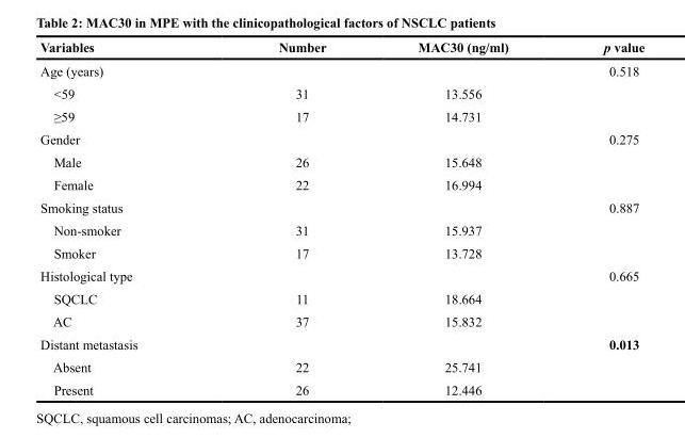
<table><thead><tr><td>Variables</td><td>Number</td><td>MAC30 (ng/ml)</td><td>p value</td></tr></thead><tbody><tr><td>Age (years)</td><td></td><td></td><td>0.518</td></tr><tr><td>&lt;59</td><td>31</td><td>13.556</td><td></td></tr><tr><td>≥59</td><td>17</td><td>14.731</td><td></td></tr><tr><td>Gender</td><td></td><td></td><td>0.275</td></tr><tr><td>Male</td><td>26</td><td>15.648</td><td></td></tr><tr><td>Female</td><td>22</td><td>16.994</td><td></td></tr><tr><td>Smoking status</td><td></td><td></td><td>0.887</td></tr><tr><td>Non-smoker</td><td>31</td><td>15.937</td><td></td></tr><tr><td>Smoker</td><td>17</td><td>13.728</td><td></td></tr><tr><td>Histological type</td><td></td><td></td><td>0.665</td></tr><tr><td>SQCLC</td><td>11</td><td>18.664</td><td></td></tr><tr><td>AC</td><td>37</td><td>15.832</td><td></td></tr><tr><td>Distant metastasis</td><td></td><td></td><td>0.013</td></tr><tr><td>Absent</td><td>22</td><td>25.741</td><td></td></tr><tr><td>Present</td><td>26</td><td>12.446</td><td></td></tr></tbody></table>